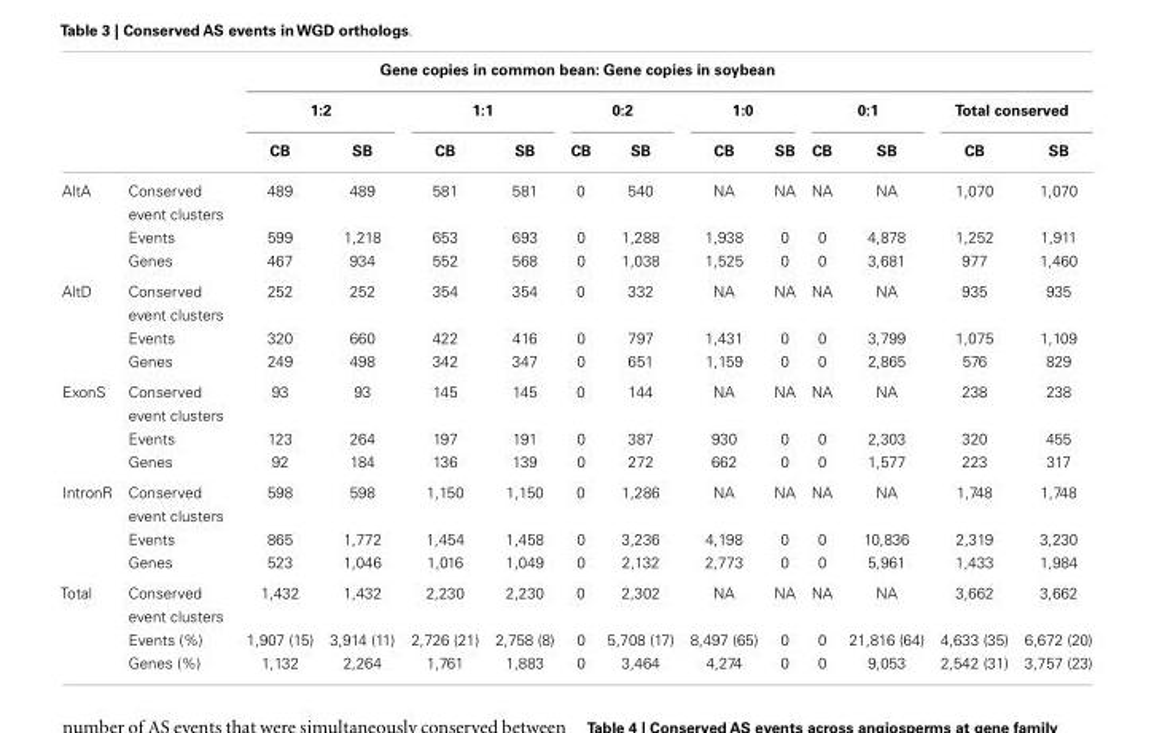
<table><thead><tr><td colspan="14">Gene copies in common bean: Gene copies in soybean</td></tr><tr><td rowspan="2"></td><td rowspan="2"></td><td colspan="2">1:2</td><td colspan="2">1:1</td><td colspan="2">0:2</td><td colspan="2">1:0</td><td colspan="2">0:1</td><td colspan="2">Total conserved</td></tr><tr><td>CB</td><td>SB</td><td>CB</td><td>SB</td><td>CB</td><td>SB</td><td>CB</td><td>SB</td><td>CB</td><td>SB</td><td>CB</td><td>SB</td></tr></thead><tbody><tr><td rowspan="3">AltA</td><td>Conserved event clusters</td><td>489</td><td>489</td><td>581</td><td>581</td><td>0</td><td>540</td><td>NA</td><td>NA</td><td>NA</td><td>NA</td><td>1,070</td><td>1,070</td></tr><tr><td>Events</td><td>599</td><td>1,218</td><td>653</td><td>693</td><td>0</td><td>1,288</td><td>1,938</td><td>0</td><td>0</td><td>4,878</td><td>1,252</td><td>1,911</td></tr><tr><td>Genes</td><td>467</td><td>934</td><td>552</td><td>568</td><td>0</td><td>1,038</td><td>1,525</td><td>0</td><td>0</td><td>3,681</td><td>977</td><td>1,460</td></tr><tr><td rowspan="3">AltD</td><td>Conserved event clusters</td><td>252</td><td>252</td><td>354</td><td>354</td><td>0</td><td>332</td><td>NA</td><td>NA</td><td>NA</td><td>NA</td><td>935</td><td>935</td></tr><tr><td>Events</td><td>320</td><td>660</td><td>422</td><td>416</td><td>0</td><td>797</td><td>1,431</td><td>0</td><td>0</td><td>3,799</td><td>1,075</td><td>1,109</td></tr><tr><td>Genes</td><td>249</td><td>498</td><td>342</td><td>347</td><td>0</td><td>651</td><td>1,159</td><td>0</td><td>0</td><td>2,865</td><td>576</td><td>829</td></tr><tr><td rowspan="3">ExonS</td><td>Conserved event clusters</td><td>93</td><td>93</td><td>145</td><td>145</td><td>0</td><td>144</td><td>NA</td><td>NA</td><td>NA</td><td>NA</td><td>238</td><td>238</td></tr><tr><td>Events</td><td>123</td><td>264</td><td>197</td><td>191</td><td>0</td><td>387</td><td>930</td><td>0</td><td>0</td><td>2,303</td><td>320</td><td>455</td></tr><tr><td>Genes</td><td>92</td><td>184</td><td>136</td><td>139</td><td>0</td><td>272</td><td>662</td><td>0</td><td>0</td><td>1,577</td><td>223</td><td>317</td></tr><tr><td rowspan="3">IntronR</td><td>Conserved event clusters</td><td>598</td><td>598</td><td>1,150</td><td>1,150</td><td>0</td><td>1,286</td><td>NA</td><td>NA</td><td>NA</td><td>NA</td><td>1,748</td><td>1,748</td></tr><tr><td>Events</td><td>865</td><td>1,772</td><td>1,454</td><td>1,458</td><td>0</td><td>3,236</td><td>4,198</td><td>0</td><td>0</td><td>10,836</td><td>2,319</td><td>3,230</td></tr><tr><td>Genes</td><td>523</td><td>1,046</td><td>1,016</td><td>1,049</td><td>0</td><td>2,132</td><td>2,773</td><td>0</td><td>0</td><td>5,961</td><td>1,433</td><td>1,984</td></tr><tr><td rowspan="3">Total</td><td>Conserved event clusters</td><td>1,432</td><td>1,432</td><td>2,230</td><td>2,230</td><td>0</td><td>2,302</td><td>NA</td><td>NA</td><td>NA</td><td>NA</td><td>3,662</td><td>3,662</td></tr><tr><td>Events (%)</td><td>1,907 (15)</td><td>3,914 (11)</td><td>2,726 (21)</td><td>2,758 (8)</td><td>0</td><td>5,708 (17)</td><td>8,497 (65)</td><td>0</td><td>0</td><td>21,816 (64)</td><td>4,633 (35)</td><td>6,672 (20)</td></tr><tr><td>Genes (%)</td><td>1,132</td><td>2,264</td><td>1,761</td><td>1,883</td><td>0</td><td>3,464</td><td>4,274</td><td>0</td><td>0</td><td>9,053</td><td>2,542 (31)</td><td>3,757 (23)</td></tr></tbody></table>